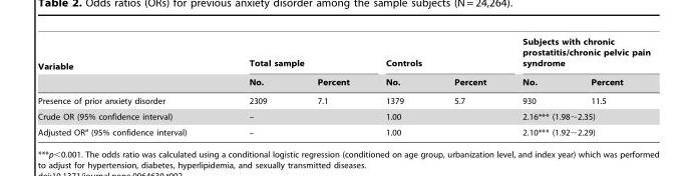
<table><thead><tr><td rowspan="2">Variable</td><td colspan="2">Total sample</td><td colspan="2">Controls</td><td colspan="2">Subjects with chronic prostatitis/chronic pelvic pain syndrome</td></tr><tr><td>No.</td><td>Percent</td><td>No.</td><td>Percent</td><td>No.</td><td>Percent</td></tr></thead><tbody><tr><td>Presence of prior anxiety disorder</td><td>2309</td><td>7.1</td><td>1379</td><td>5.7</td><td>930</td><td>11.5</td></tr><tr><td>Crude OR (95% confidence interval)</td><td colspan="2">–</td><td colspan="2">1.00</td><td colspan="2">2.16*** (1.98∼2.35)</td></tr><tr><td>Adjusted OR<sup>a</sup> (95% confidence interval)</td><td colspan="2">–</td><td colspan="2">1.00</td><td colspan="2">2.10*** (1.92∼2.29)</td></tr></tbody></table>